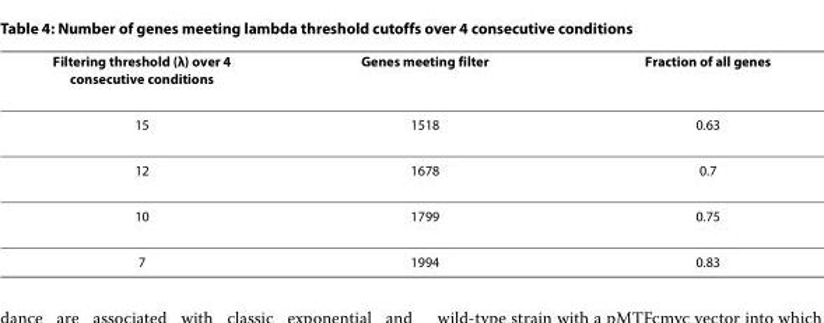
<table><thead><tr><td>Filtering threshold (λ) over 4 consecutive conditions</td><td>Genes meeting filter</td><td>Fraction of all genes</td></tr></thead><tbody><tr><td>15</td><td>1518</td><td>0.63</td></tr><tr><td>12</td><td>1678</td><td>0.7</td></tr><tr><td>10</td><td>1799</td><td>0.75</td></tr><tr><td>7</td><td>1994</td><td>0.83</td></tr></tbody></table>